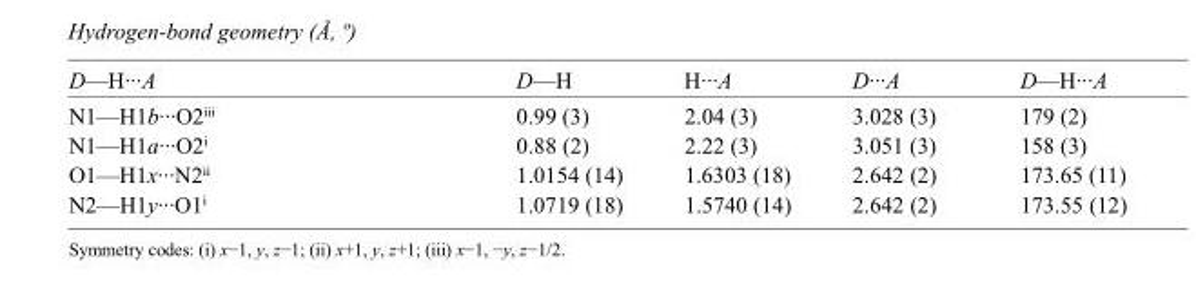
<table><tbody><tr><td>D—H···A</td><td>D—H</td><td>H···A</td><td>D···A</td><td>D—H···A</td></tr><tr><td>N1—H1b···O2<sup>iii</sup></td><td>0.99 (3)</td><td>2.04 (3)</td><td>3.028 (3)</td><td>179 (2)</td></tr><tr><td>N1—H1a···O2<sup>i</sup></td><td>0.88 (2)</td><td>2.22 (3)</td><td>3.051 (3)</td><td>158 (3)</td></tr><tr><td>O1—H1x···N2<sup>ii</sup></td><td>1.0154 (14)</td><td>1.6303 (18)</td><td>2.642 (2)</td><td>173.65 (11)</td></tr><tr><td>N2—H1y···O1<sup>i</sup></td><td>1.0719 (18)</td><td>1.5740 (14)</td><td>2.642 (2)</td><td>173.55 (12)</td></tr></tbody></table>